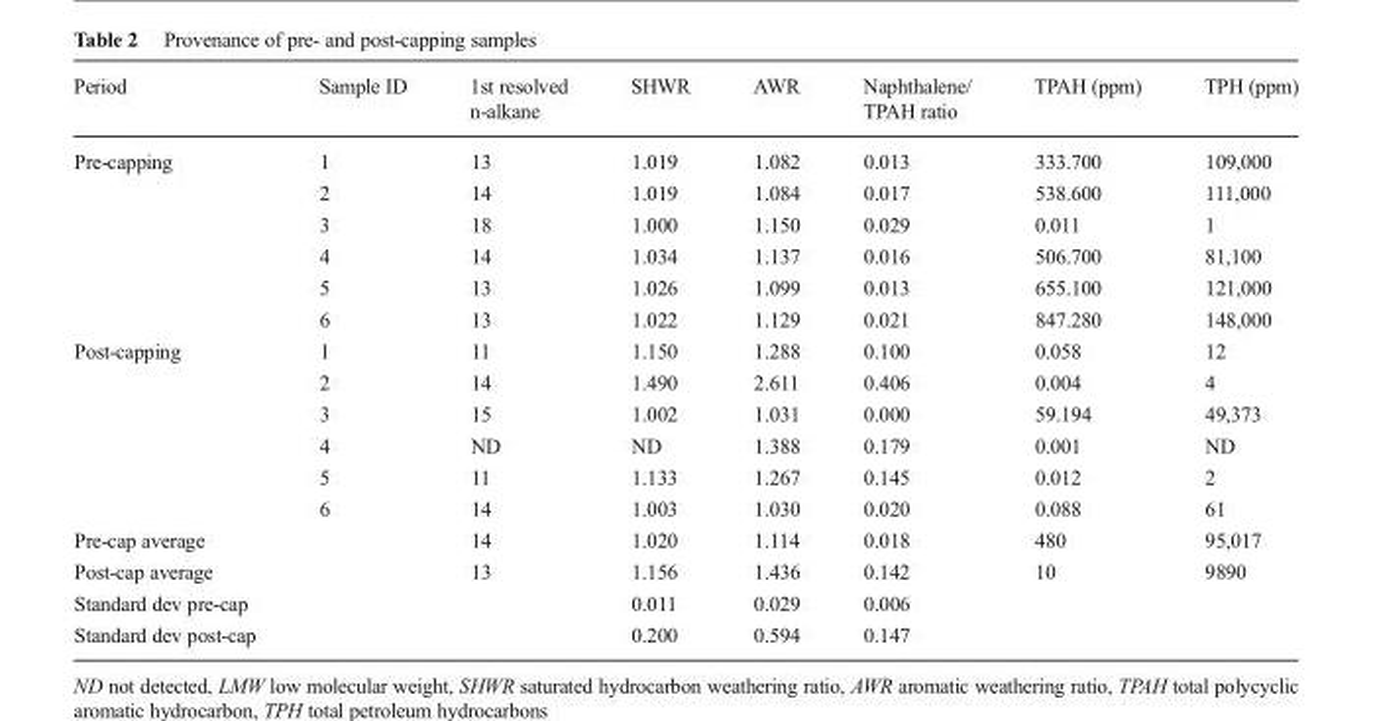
<table><thead><tr><td>Period</td><td>Sample ID</td><td>1st resolved n-alkane</td><td>SHWR</td><td>AWR</td><td>Naphthalene/ TPAH ratio</td><td>TPAH (ppm)</td><td>TPH (ppm)</td></tr></thead><tbody><tr><td rowspan="6">Pre-capping</td><td>1</td><td>13</td><td>1.019</td><td>1.082</td><td>0.013</td><td>333.700</td><td>109,000</td></tr><tr><td>2</td><td>14</td><td>1.019</td><td>1.084</td><td>0.017</td><td>538.600</td><td>111,000</td></tr><tr><td>3</td><td>18</td><td>1.000</td><td>1.150</td><td>0.029</td><td>0.011</td><td>1</td></tr><tr><td>4</td><td>14</td><td>1.034</td><td>1.137</td><td>0.016</td><td>506.700</td><td>81,100</td></tr><tr><td>5</td><td>13</td><td>1.026</td><td>1.099</td><td>0.013</td><td>655.100</td><td>121,000</td></tr><tr><td>6</td><td>13</td><td>1.022</td><td>1.129</td><td>0.021</td><td>847.280</td><td>148,000</td></tr><tr><td rowspan="6">Post-capping</td><td>1</td><td>11</td><td>1.150</td><td>1.288</td><td>0.100</td><td>0.058</td><td>12</td></tr><tr><td>2</td><td>14</td><td>1.490</td><td>2.611</td><td>0.406</td><td>0.004</td><td>4</td></tr><tr><td>3</td><td>15</td><td>1.002</td><td>1.031</td><td>0.000</td><td>59.194</td><td>49,373</td></tr><tr><td>4</td><td>ND</td><td>ND</td><td>1.388</td><td>0.179</td><td>0.001</td><td>ND</td></tr><tr><td>5</td><td>11</td><td>1.133</td><td>1.267</td><td>0.145</td><td>0.012</td><td>2</td></tr><tr><td>6</td><td>14</td><td>1.003</td><td>1.030</td><td>0.020</td><td>0.088</td><td>61</td></tr><tr><td colspan="2">Pre-cap average</td><td>14</td><td>1.020</td><td>1.114</td><td>0.018</td><td>480</td><td>95,017</td></tr><tr><td colspan="2">Post-cap average</td><td>13</td><td>1.156</td><td>1.436</td><td>0.142</td><td>10</td><td>9890</td></tr><tr><td>Standard dev pre-cap</td><td></td><td></td><td>0.011</td><td>0.029</td><td>0.006</td><td></td><td></td></tr><tr><td>Standard dev post-cap</td><td></td><td></td><td>0.200</td><td>0.594</td><td>0.147</td><td></td><td></td></tr></tbody></table>